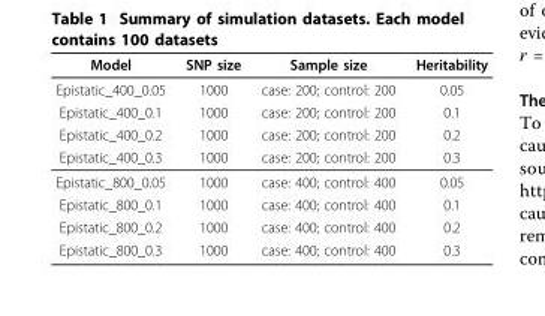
<table><thead><tr><td>Model</td><td>SNP size</td><td>Sample size</td><td>Heritability</td></tr></thead><tbody><tr><td>Epistatic_400_0.05</td><td>1000</td><td>case: 200; control: 200</td><td>0.05</td></tr><tr><td>Epistatic_400_0.1</td><td>1000</td><td>case: 200; control: 200</td><td>0.1</td></tr><tr><td>Epistatic_400_0.2</td><td>1000</td><td>case: 200; control: 200</td><td>0.2</td></tr><tr><td>Epistatic_400_0.3</td><td>1000</td><td>case: 200; control: 200</td><td>0.3</td></tr><tr><td>Epistatic_800_0.05</td><td>1000</td><td>case: 400; control: 400</td><td>0.05</td></tr><tr><td>Epistatic_800_0.1</td><td>1000</td><td>case: 400; control: 400</td><td>0.1</td></tr><tr><td>Epistatic_800_0.2</td><td>1000</td><td>case: 400; control: 400</td><td>0.2</td></tr><tr><td>Epistatic_800_0.3</td><td>1000</td><td>case: 400; control: 400</td><td>0.3</td></tr></tbody></table>